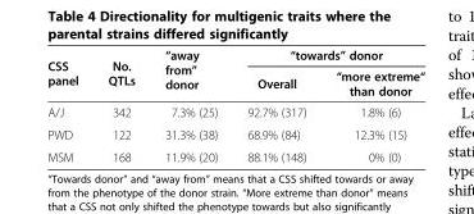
<table><thead><tr><td rowspan="2">CSS panel</td><td rowspan="2">No. QTLs</td><td rowspan="2">“away from” donor</td><td colspan="2">“towards” donor</td></tr><tr><td>Overall</td><td>“more extreme“ than donor</td></tr></thead><tbody><tr><td>A/J</td><td>342</td><td>7.3% (25)</td><td>92.7% (317)</td><td>1.8% (6)</td></tr><tr><td>PWD</td><td>122</td><td>31.3% (38)</td><td>68.9% (84)</td><td>12.3% (15)</td></tr><tr><td>MSM</td><td>168</td><td>11.9% (20)</td><td>88.1% (148)</td><td>0% (0)</td></tr></tbody></table>